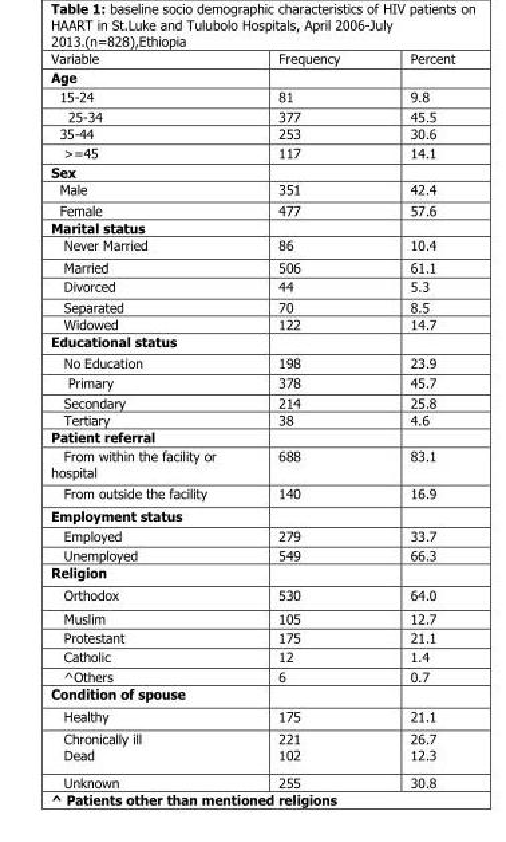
<table><thead><tr><td>Variable</td><td>Frequency</td><td>Percent</td></tr></thead><tbody><tr><td colspan="3">Age</td></tr><tr><td>15-24</td><td>81</td><td>9.8</td></tr><tr><td>25-34</td><td>377</td><td>45.5</td></tr><tr><td>35-44</td><td>253</td><td>30.6</td></tr><tr><td>&gt;=45</td><td>117</td><td>14.1</td></tr><tr><td colspan="3">Sex</td></tr><tr><td>Male</td><td>351</td><td>42.4</td></tr><tr><td>Female</td><td>477</td><td>57.6</td></tr><tr><td colspan="3">Marital status</td></tr><tr><td>Never Married</td><td>86</td><td>10.4</td></tr><tr><td>Married</td><td>506</td><td>61.1</td></tr><tr><td>Divorced</td><td>44</td><td>5.3</td></tr><tr><td>Separated</td><td>70</td><td>8.5</td></tr><tr><td>Widowed</td><td>122</td><td>14.7</td></tr><tr><td colspan="3">Educational status</td></tr><tr><td>No Education</td><td>198</td><td>23.9</td></tr><tr><td>Primary</td><td>378</td><td>45.7</td></tr><tr><td>Secondary</td><td>214</td><td>25.8</td></tr><tr><td>Tertiary</td><td>38</td><td>4.6</td></tr><tr><td colspan="3">Patient referral</td></tr><tr><td>From within the facility or hospital</td><td>688</td><td>83.1</td></tr><tr><td>From outside the facility</td><td>140</td><td>16.9</td></tr><tr><td colspan="3">Employment status</td></tr><tr><td>Employed</td><td>279</td><td>33.7</td></tr><tr><td>Unemployed</td><td>549</td><td>66.3</td></tr><tr><td colspan="3">Religion</td></tr><tr><td>Orthodox</td><td>530</td><td>64.0</td></tr><tr><td>Muslim</td><td>105</td><td>12.7</td></tr><tr><td>Protestant</td><td>175</td><td>21.1</td></tr><tr><td>Catholic</td><td>12</td><td>1.4</td></tr><tr><td>^Others</td><td>6</td><td>0.7</td></tr><tr><td colspan="3">Condition of spouse</td></tr><tr><td>Healthy</td><td>175</td><td>21.1</td></tr><tr><td>Chronically ill Dead</td><td>221 102</td><td>26.7 12.3</td></tr><tr><td>Unknown</td><td>255</td><td>30.8</td></tr></tbody></table>